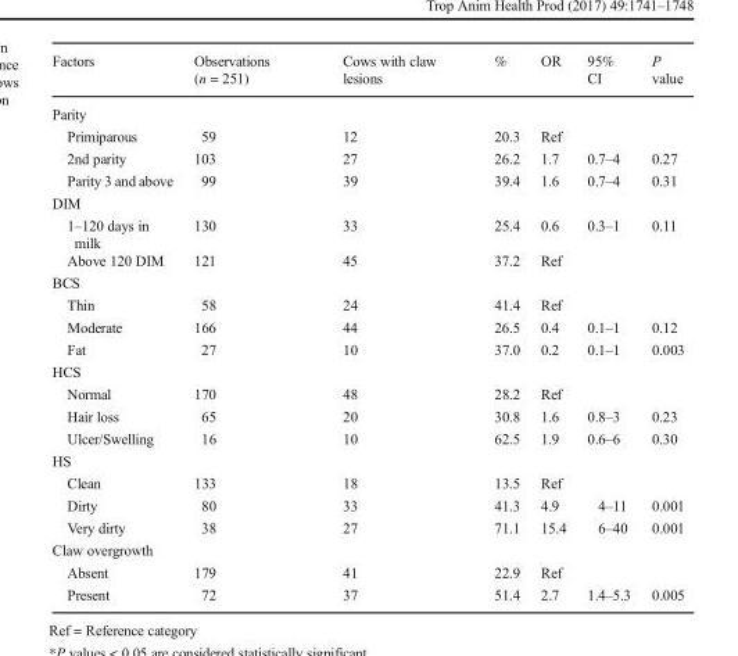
<table><thead><tr><td>Factors</td><td>Observations (n = 251)</td><td>Cows with claw lesions</td><td>%</td><td>OR</td><td>95% CI</td><td>P value</td></tr></thead><tbody><tr><td colspan="7">Parity</td></tr><tr><td>Primiparous</td><td>59</td><td>12</td><td>20.3</td><td>Ref</td><td></td><td></td></tr><tr><td>2nd parity</td><td>103</td><td>27</td><td>26.2</td><td>1.7</td><td>0.7–4</td><td>0.27</td></tr><tr><td>Parity 3 and above</td><td>99</td><td>39</td><td>39.4</td><td>1.6</td><td>0.7–4</td><td>0.31</td></tr><tr><td colspan="7">DIM</td></tr><tr><td>1–120 days in milk</td><td>130</td><td>33</td><td>25.4</td><td>0.6</td><td>0.3–1</td><td>0.11</td></tr><tr><td>Above 120 DIM</td><td>121</td><td>45</td><td>37.2</td><td>Ref</td><td></td><td></td></tr><tr><td colspan="7">BCS</td></tr><tr><td>Thin</td><td>58</td><td>24</td><td>41.4</td><td>Ref</td><td></td><td></td></tr><tr><td>Moderate</td><td>166</td><td>44</td><td>26.5</td><td>0.4</td><td>0.1–1</td><td>0.12</td></tr><tr><td>Fat</td><td>27</td><td>10</td><td>37.0</td><td>0.2</td><td>0.1–1</td><td>0.003</td></tr><tr><td colspan="7">HCS</td></tr><tr><td>Normal</td><td>170</td><td>48</td><td>28.2</td><td>Ref</td><td></td><td></td></tr><tr><td>Hair loss</td><td>65</td><td>20</td><td>30.8</td><td>1.6</td><td>0.8–3</td><td>0.23</td></tr><tr><td>Ulcer/Swelling</td><td>16</td><td>10</td><td>62.5</td><td>1.9</td><td>0.6–6</td><td>0.30</td></tr><tr><td colspan="7">HS</td></tr><tr><td>Clean</td><td>133</td><td>18</td><td>13.5</td><td>Ref</td><td></td><td></td></tr><tr><td>Dirty</td><td>80</td><td>33</td><td>41.3</td><td>4.9</td><td>4–11</td><td>0.001</td></tr><tr><td>Very dirty</td><td>38</td><td>27</td><td>71.1</td><td>15.4</td><td>6–40</td><td>0.001</td></tr><tr><td colspan="7">Claw overgrowth</td></tr><tr><td>Absent</td><td>179</td><td>41</td><td>22.9</td><td>Ref</td><td></td><td></td></tr><tr><td>Present</td><td>72</td><td>37</td><td>51.4</td><td>2.7</td><td>1.4–5.3</td><td>0.005</td></tr></tbody></table>